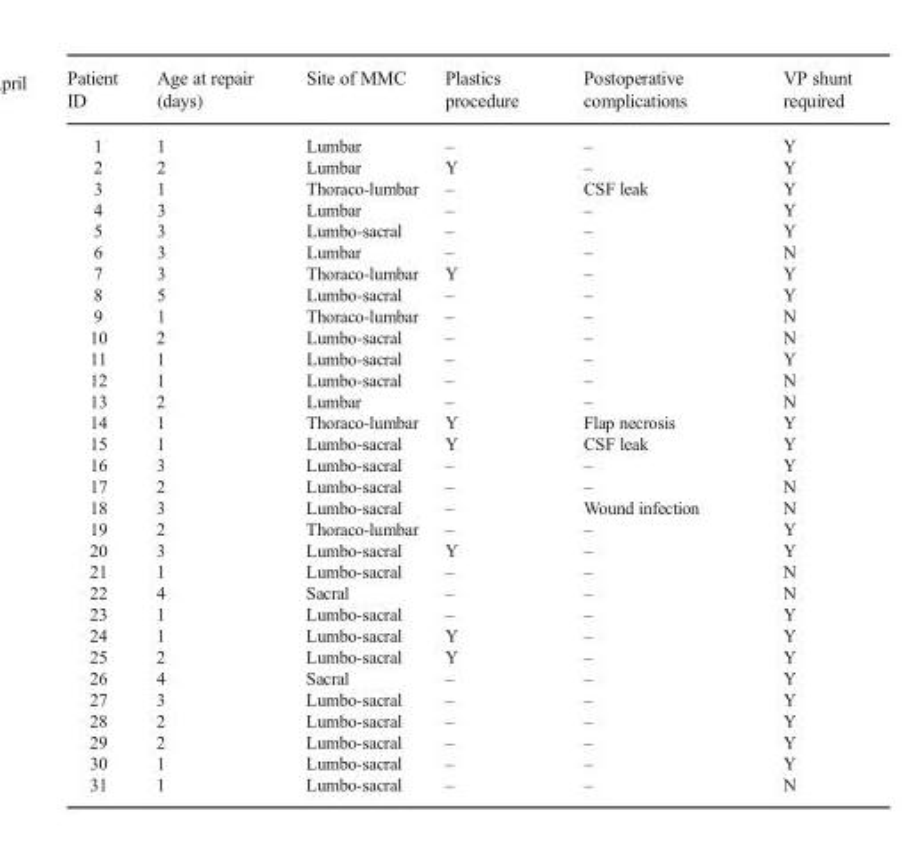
<table><thead><tr><td>Patient ID</td><td>Age at repair (days)</td><td>Site of MMC</td><td>Plastics procedure</td><td>Postoperative complications</td><td>VP shunt required</td></tr></thead><tbody><tr><td>1</td><td>1</td><td>Lumbar</td><td>–</td><td>–</td><td>Y</td></tr><tr><td>2</td><td>2</td><td>Lumbar</td><td>Y</td><td>–</td><td>Y</td></tr><tr><td>3</td><td>1</td><td>Thoraco-lumbar</td><td>–</td><td>CSF leak</td><td>Y</td></tr><tr><td>4</td><td>3</td><td>Lumbar</td><td>–</td><td>–</td><td>Y</td></tr><tr><td>5</td><td>3</td><td>Lumbo-sacral</td><td>–</td><td>–</td><td>Y</td></tr><tr><td>6</td><td>3</td><td>Lumbar</td><td>–</td><td>–</td><td>N</td></tr><tr><td>7</td><td>3</td><td>Thoraco-lumbar</td><td>Y</td><td>–</td><td>Y</td></tr><tr><td>8</td><td>5</td><td>Lumbo-sacral</td><td>–</td><td>–</td><td>Y</td></tr><tr><td>9</td><td>1</td><td>Thoraco-lumbar</td><td>–</td><td>–</td><td>N</td></tr><tr><td>10</td><td>2</td><td>Lumbo-sacral</td><td>–</td><td>–</td><td>N</td></tr><tr><td>11</td><td>1</td><td>Lumbo-sacral</td><td>–</td><td>–</td><td>Y</td></tr><tr><td>12</td><td>1</td><td>Lumbo-sacral</td><td>–</td><td>–</td><td>N</td></tr><tr><td>13</td><td>2</td><td>Lumbar</td><td>–</td><td>–</td><td>N</td></tr><tr><td>14</td><td>1</td><td>Thoraco-lumbar</td><td>Y</td><td>Flap necrosis</td><td>Y</td></tr><tr><td>15</td><td>1</td><td>Lumbo-sacral</td><td>Y</td><td>CSF leak</td><td>Y</td></tr><tr><td>16</td><td>3</td><td>Lumbo-sacral</td><td>–</td><td>–</td><td>Y</td></tr><tr><td>17</td><td>2</td><td>Lumbo-sacral</td><td>–</td><td>–</td><td>N</td></tr><tr><td>18</td><td>3</td><td>Lumbo-sacral</td><td>–</td><td>Wound infection</td><td>N</td></tr><tr><td>19</td><td>2</td><td>Thoraco-lumbar</td><td>–</td><td>–</td><td>Y</td></tr><tr><td>20</td><td>3</td><td>Lumbo-sacral</td><td>Y</td><td>–</td><td>Y</td></tr><tr><td>21</td><td>1</td><td>Lumbo-sacral</td><td>–</td><td>–</td><td>N</td></tr><tr><td>22</td><td>4</td><td>Sacral</td><td>–</td><td>–</td><td>N</td></tr><tr><td>23</td><td>1</td><td>Lumbo-sacral</td><td>–</td><td>–</td><td>Y</td></tr><tr><td>24</td><td>1</td><td>Lumbo-sacral</td><td>Y</td><td>–</td><td>Y</td></tr><tr><td>25</td><td>2</td><td>Lumbo-sacral</td><td>Y</td><td>–</td><td>Y</td></tr><tr><td>26</td><td>4</td><td>Sacral</td><td>–</td><td>–</td><td>Y</td></tr><tr><td>27</td><td>3</td><td>Lumbo-sacral</td><td>–</td><td>–</td><td>Y</td></tr><tr><td>28</td><td>2</td><td>Lumbo-sacral</td><td>–</td><td>–</td><td>Y</td></tr><tr><td>29</td><td>2</td><td>Lumbo-sacral</td><td>–</td><td>–</td><td>Y</td></tr><tr><td>30</td><td>1</td><td>Lumbo-sacral</td><td>–</td><td>–</td><td>Y</td></tr><tr><td>31</td><td>1</td><td>Lumbo-sacral</td><td>–</td><td>–</td><td>N</td></tr></tbody></table>